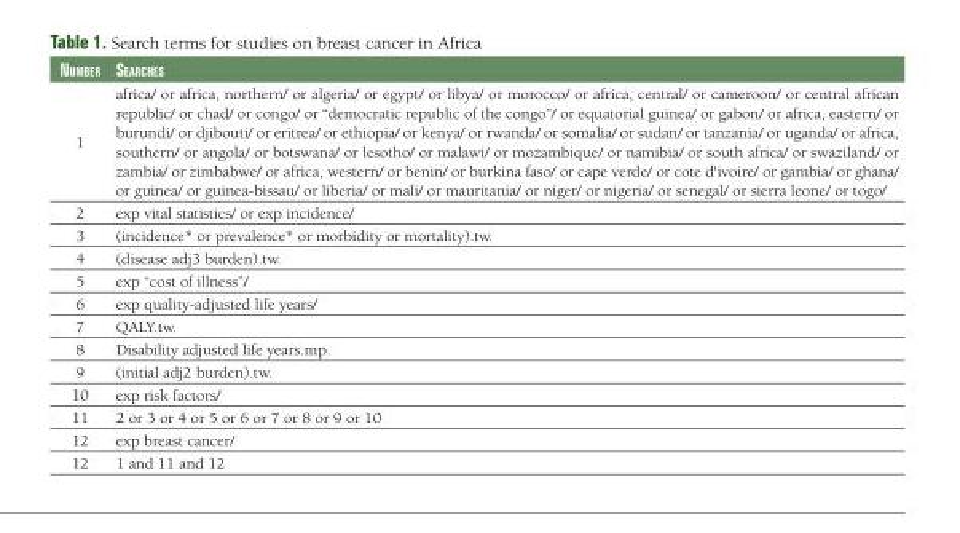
<table><thead><tr><td>Number</td><td>SearcheS</td></tr></thead><tbody><tr><td>1</td><td>africa/ or africa, northern/ or algeria/ or egypt/ or libya/ or morocco/ or africa, central/ or cameroon/ or central african republic/ or chad/ or congo/ or “democratic republic of the congo”/ or equatorial guinea/ or gabon/ or africa, eastern/ or burundi/ or djibouti/ or eritrea/ or ethiopia/ or kenya/ or rwanda/ or somalia/ or sudan/ or tanzania/ or uganda/ or africa, southern/ or angola/ or botswana/ or lesotho/ or malawi/ or mozambique/ or namibia/ or south africa/ or swaziland/ or zambia/ or zimbabwe/ or africa, western/ or benin/ or burkina faso/ or cape verde/ or cote d&#x27;ivoire/ or gambia/ or ghana/ or guinea/ or guinea-bissau/ or liberia/ or mali/ or mauritania/ or niger/ or nigeria/ or senegal/ or sierra leone/ or togo/</td></tr><tr><td>2</td><td>exp vital statistics/ or exp incidence/</td></tr><tr><td>3</td><td>(incidence* or prevalence* or morbidity or mortality).tw.</td></tr><tr><td>4</td><td>(disease adj3 burden).tw.</td></tr><tr><td>5</td><td>exp “cost of illness”/</td></tr><tr><td>6</td><td>exp quality-adjusted life years/</td></tr><tr><td>7</td><td>QALY.tw.</td></tr><tr><td>8</td><td>Disability adjusted life years.mp.</td></tr><tr><td>9</td><td>(initial adj2 burden).tw.</td></tr><tr><td>10</td><td>exp risk factors/</td></tr><tr><td>11</td><td>2 or 3 or 4 or 5 or 6 or 7 or 8 or 9 or 10</td></tr><tr><td>12</td><td>exp breast cancer/</td></tr><tr><td>12</td><td>1 and 11 and 12</td></tr></tbody></table>